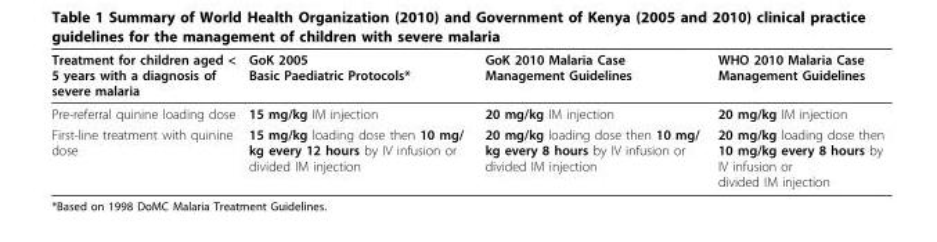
<table><thead><tr><td>Treatment for children aged &lt; 5 years with a diagnosis of severe malaria</td><td>GoK 2005 Basic Paediatric Protocols*</td><td>GoK 2010 Malaria Case Management Guidelines</td><td>WHO 2010 Malaria Case Management Guidelines</td></tr></thead><tbody><tr><td>Pre-referral quinine loading dose</td><td>15 mg/kg IM injection</td><td>20 mg/kg IM injection</td><td>20 mg/kg IM injection</td></tr><tr><td>First-line treatment with quinine dose</td><td>15 mg/kg loading dose then 10 mg/ kg every 12 hours by IV infusion or divided IM injection</td><td>20 mg/kg loading dose then 10 mg/ kg every 8 hours by IV infusion or divided IM injection</td><td>20 mg/kg loading dose then 10 mg/kg every 8 hours by IV infusion or divided IM injection</td></tr></tbody></table>